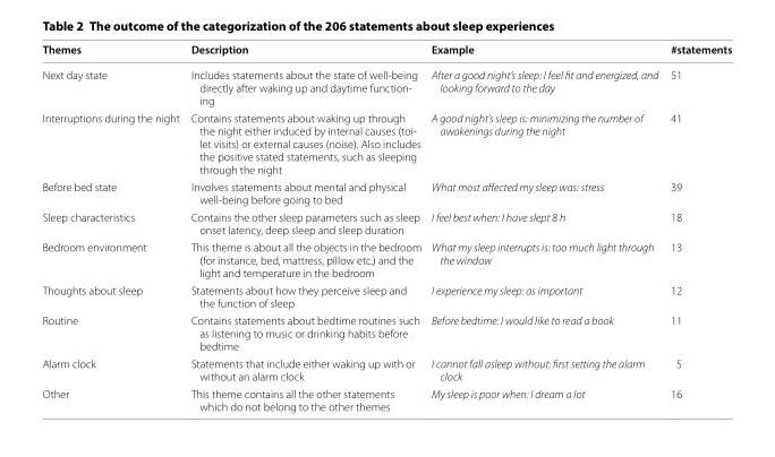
<table><thead><tr><td>Themes</td><td>Description</td><td>Example</td><td>#statements</td></tr></thead><tbody><tr><td>Next day state</td><td>Includes statements about the state of well-being directly after waking up and daytime function- ing</td><td>After a good night’s sleep: I feel fit and energized, and looking forward to the day</td><td>51</td></tr><tr><td>Interruptions during the night</td><td>Contains statements about waking up through the night either induced by internal causes (toi- let visits) or external causes (noise). Also includes the positive stated statements, such as sleeping through the night</td><td>A good night’s sleep is: minimizing the number of awakenings during the night</td><td>41</td></tr><tr><td>Before bed state</td><td>Involves statements about mental and physical well-being before going to bed</td><td>What most affected my sleep was: stress</td><td>39</td></tr><tr><td>Sleep characteristics</td><td>Contains the other sleep parameters such as sleep onset latency, deep sleep and sleep duration</td><td>I feel best when: I have slept 8 h</td><td>18</td></tr><tr><td>Bedroom environment</td><td>This theme is about all the objects in the bedroom (for instance, bed, mattress, pillow etc.) and the light and temperature in the bedroom</td><td>What my sleep interrupts is: too much light through the window</td><td>13</td></tr><tr><td>Thoughts about sleep</td><td>Statements about how they perceive sleep and the function of sleep</td><td>I experience my sleep: as important</td><td>12</td></tr><tr><td>Routine</td><td>Contains statements about bedtime routines such as listening to music or drinking habits before bedtime</td><td>Before bedtime: I would like to read a book</td><td>11</td></tr><tr><td>Alarm clock</td><td>Statements that include either waking up with or without an alarm clock</td><td>I cannot fall asleep without: first setting the alarm clock</td><td>5</td></tr><tr><td>Other</td><td>This theme contains all the other statements which do not belong to the other themes</td><td>My sleep is poor when: I dream a lot</td><td>16</td></tr></tbody></table>